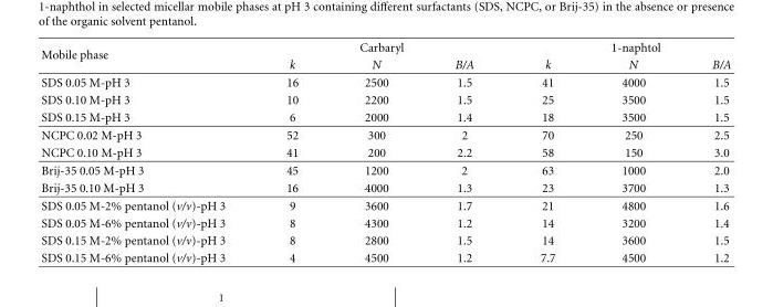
<table><thead><tr><td rowspan="2">Mobile phase</td><td colspan="3">Carbaryl</td><td colspan="3">1-naphtol</td></tr><tr><td>k</td><td>N</td><td>B/A</td><td>k</td><td>N</td><td>B/A</td></tr></thead><tbody><tr><td>SDS 0.05 M-pH 3</td><td>16</td><td>2500</td><td>1.5</td><td>41</td><td>4000</td><td>1.5</td></tr><tr><td>SDS 0.10 M-pH 3</td><td>10</td><td>2200</td><td>1.5</td><td>25</td><td>3500</td><td>1.5</td></tr><tr><td>SDS 0.15 M-pH 3</td><td>6</td><td>2000</td><td>1.4</td><td>18</td><td>3500</td><td>1.5</td></tr><tr><td>NCPC 0.02 M-pH 3</td><td>52</td><td>300</td><td>2</td><td>70</td><td>250</td><td>2.5</td></tr><tr><td>NCPC 0.10 M-pH 3</td><td>41</td><td>200</td><td>2.2</td><td>58</td><td>150</td><td>3.0</td></tr><tr><td>Brij-35 0.05 M-pH 3</td><td>45</td><td>1200</td><td>2</td><td>63</td><td>1000</td><td>2.0</td></tr><tr><td>Brij-35 0.10 M-pH 3</td><td>16</td><td>4000</td><td>1.3</td><td>23</td><td>3700</td><td>1.3</td></tr><tr><td>SDS 0.05 M-2% pentanol (v/v)-pH 3</td><td>9</td><td>3600</td><td>1.7</td><td>21</td><td>4800</td><td>1.6</td></tr><tr><td>SDS 0.05 M-6% pentanol (v/v)-pH 3</td><td>8</td><td>4300</td><td>1.2</td><td>14</td><td>3200</td><td>1.4</td></tr><tr><td>SDS 0.15 M-2% pentanol (v/v)-pH 3</td><td>8</td><td>2800</td><td>1.5</td><td>14</td><td>3600</td><td>1.5</td></tr><tr><td>SDS 0.15 M-6% pentanol (v/v)-pH 3</td><td>4</td><td>4500</td><td>1.2</td><td>7.7</td><td>4500</td><td>1.2</td></tr></tbody></table>